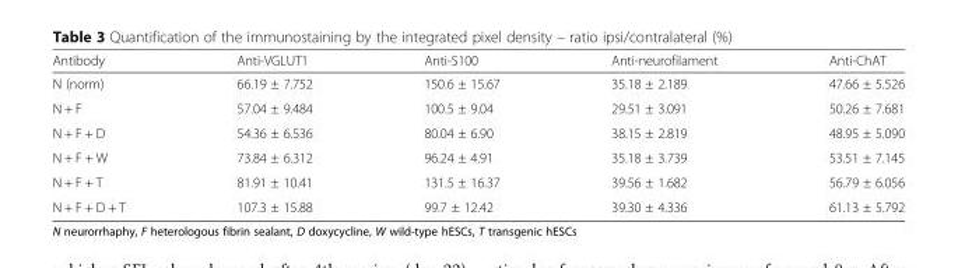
<table><thead><tr><td>Antibody</td><td>Anti-VGLUT1</td><td>Anti-S100</td><td>Anti-neurofilament</td><td>Anti-ChAT</td></tr></thead><tbody><tr><td>N (norm)</td><td>66.19 ± 7.752</td><td>150.6 ± 15.67</td><td>35.18 ± 2.189</td><td>47.66 ± 5.526</td></tr><tr><td>N + F</td><td>57.04 ± 9.484</td><td>100.5 ± 9.04</td><td>29.51 ± 3.091</td><td>50.26 ± 7.681</td></tr><tr><td>N + F + D</td><td>54.36 ± 6.536</td><td>80.04 ± 6.90</td><td>38.15 ± 2.819</td><td>48.95 ± 5.090</td></tr><tr><td>N + F + W</td><td>73.84 ± 6.312</td><td>96.24 ± 4.91</td><td>35.18 ± 3.739</td><td>53.51 ± 7.145</td></tr><tr><td>N + F + T</td><td>81.91 ± 10.41</td><td>131.5 ± 16.37</td><td>39.56 ± 1.682</td><td>56.79 ± 6.056</td></tr><tr><td>N + F + D + T</td><td>107.3 ± 15.88</td><td>99.7 ± 12.42</td><td>39.30 ± 4.336</td><td>61.13 ± 5.792</td></tr></tbody></table>